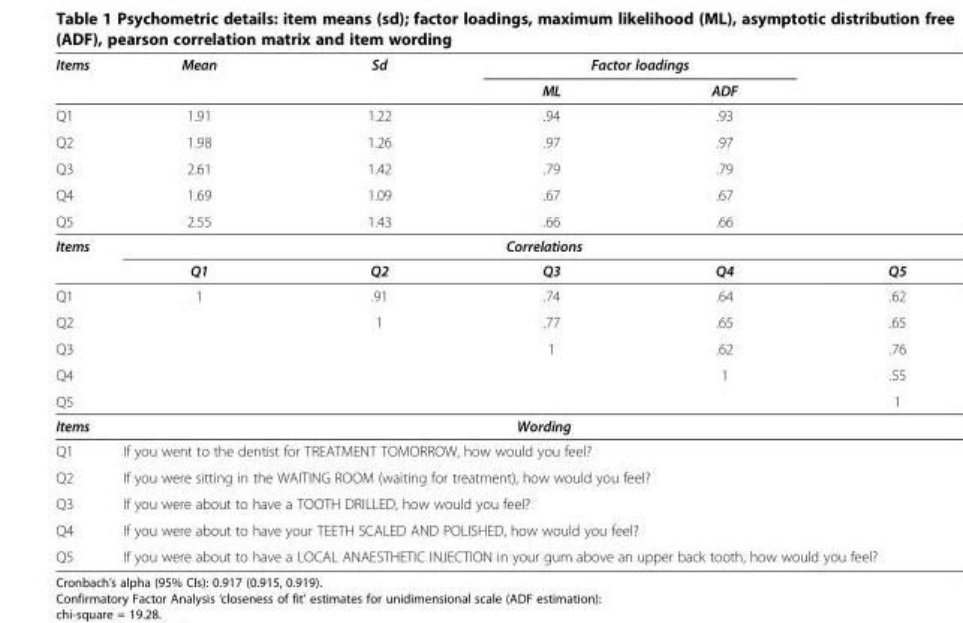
<table><tbody><tr><td rowspan="2">Items</td><td>Mean</td><td>Sd</td><td colspan="2">Factor loadings</td><td></td></tr><tr><td></td><td></td><td>ML</td><td>ADF</td><td></td></tr><tr><td>Q1</td><td>1.91</td><td>1.22</td><td>.94</td><td>.93</td><td></td></tr><tr><td>Q2</td><td>1.98</td><td>1.26</td><td>.97</td><td>.97</td><td></td></tr><tr><td>Q3</td><td>2.61</td><td>1.42</td><td>.79</td><td>.79</td><td></td></tr><tr><td>Q4</td><td>1.69</td><td>1.09</td><td>.67</td><td>.67</td><td></td></tr><tr><td>Q5</td><td>2.55</td><td>1.43</td><td>.66</td><td>.66</td><td></td></tr><tr><td rowspan="2">Items</td><td colspan="5">Correlations</td></tr><tr><td>Q1</td><td>Q2</td><td>Q3</td><td>Q4</td><td>Q5</td></tr><tr><td>Q1</td><td>1</td><td>.91</td><td>.74</td><td>.64</td><td>.62</td></tr><tr><td>Q2</td><td></td><td>1</td><td>.77</td><td>.65</td><td>.65</td></tr><tr><td>Q3</td><td></td><td></td><td>1</td><td>.62</td><td>.76</td></tr><tr><td>Q4</td><td></td><td></td><td></td><td>1</td><td>.55</td></tr><tr><td>Q5</td><td></td><td></td><td></td><td></td><td>1</td></tr><tr><td>Items</td><td colspan="5">Wording</td></tr><tr><td>Q1</td><td colspan="5">If you went to the dentist for TREATMENT TOMORROW, how would you feel?</td></tr><tr><td>Q2</td><td colspan="5">If you were sitting in the WAITING ROOM (waiting for treatment), how would you feel?</td></tr><tr><td>Q3</td><td colspan="5">If you were about to have a TOOTH DRILLED, how would you feel?</td></tr><tr><td>Q4</td><td colspan="5">If you were about to have your TEETH SCALED AND POLISHED, how would you feel?</td></tr><tr><td>Q5</td><td colspan="5">If you were about to have a LOCAL ANAESTHETIC INJECTION in your gum above an upper back tooth, how would you feel?</td></tr></tbody></table>